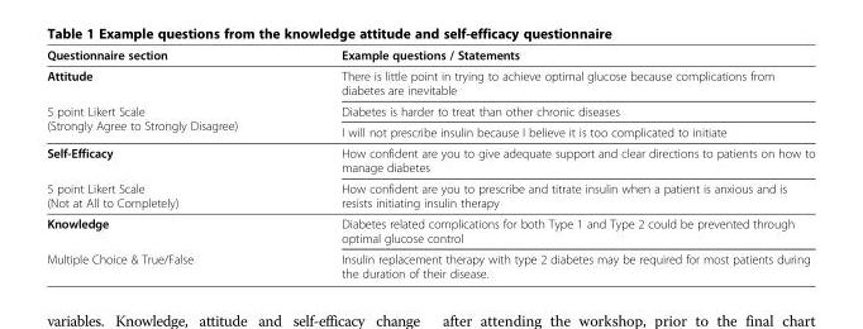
<table><thead><tr><td>Questionnaire section</td><td>Example questions / Statements</td></tr></thead><tbody><tr><td>Attitude</td><td>There is little point in trying to achieve optimal glucose because complications from diabetes are inevitable</td></tr><tr><td rowspan="2">5 point Likert Scale (Strongly Agree to Strongly Disagree)</td><td>Diabetes is harder to treat than other chronic diseases</td></tr><tr><td>I will not prescribe insulin because I believe it is too complicated to initiate</td></tr><tr><td>Self-Efficacy</td><td>How confident are you to give adequate support and clear directions to patients on how to manage diabetes</td></tr><tr><td>5 point Likert Scale (Not at All to Completely)</td><td>How confident are you to prescribe and titrate insulin when a patient is anxious and is resists initiating insulin therapy</td></tr><tr><td>Knowledge</td><td>Diabetes related complications for both Type 1 and Type 2 could be prevented through optimal glucose control</td></tr><tr><td>Multiple Choice &amp; True/False</td><td>Insulin replacement therapy with type 2 diabetes may be required for most patients during the duration of their disease.</td></tr></tbody></table>